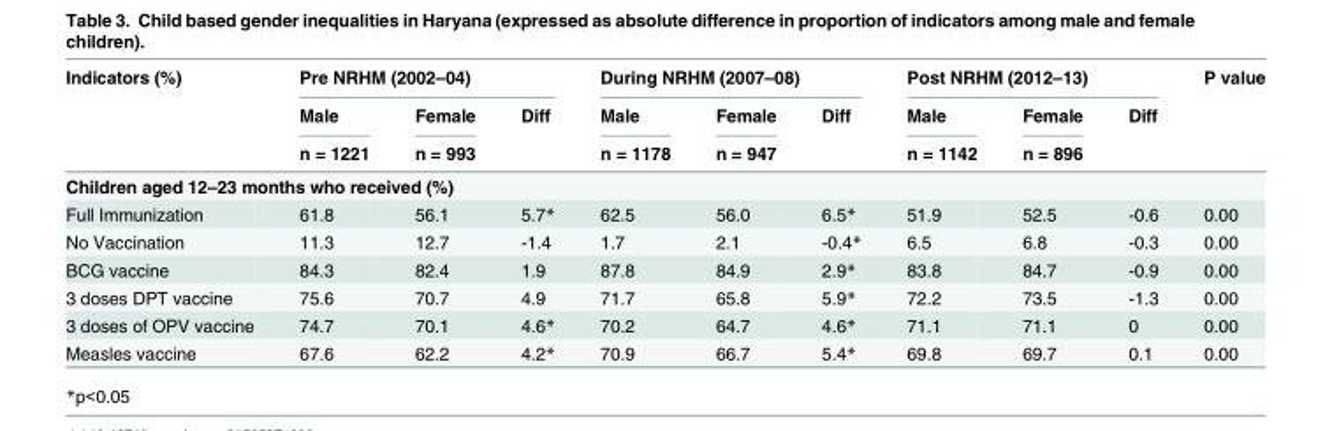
<table><thead><tr><td rowspan="3">Indicators (%)</td><td colspan="3">Pre NRHM (2002–04)</td><td colspan="3">During NRHM (2007–08)</td><td colspan="3">Post NRHM (2012–13)</td><td rowspan="3">P value</td></tr><tr><td rowspan="2">Male n = 1221</td><td rowspan="2">Female n = 993</td><td rowspan="2">Diff</td><td rowspan="2">Male n = 1178</td><td rowspan="2">Female n = 947</td><td rowspan="2">Diff</td><td rowspan="2">Male n = 1142</td><td rowspan="2">Female n = 896</td><td rowspan="2">Diff</td></tr><tr></tr></thead><tbody><tr><td colspan="11">Children aged 12–23 months who received (%)</td></tr><tr><td>Full Immunization</td><td>61.8</td><td>56.1</td><td>5.7*</td><td>62.5</td><td>56.0</td><td>6.5*</td><td>51.9</td><td>52.5</td><td>-0.6</td><td>0.00</td></tr><tr><td>No Vaccination</td><td>11.3</td><td>12.7</td><td>-1.4</td><td>1.7</td><td>2.1</td><td>-0.4*</td><td>6.5</td><td>6.8</td><td>-0.3</td><td>0.00</td></tr><tr><td>BCG vaccine</td><td>84.3</td><td>82.4</td><td>1.9</td><td>87.8</td><td>84.9</td><td>2.9*</td><td>83.8</td><td>84.7</td><td>-0.9</td><td>0.00</td></tr><tr><td>3 doses DPT vaccine</td><td>75.6</td><td>70.7</td><td>4.9</td><td>71.7</td><td>65.8</td><td>5.9*</td><td>72.2</td><td>73.5</td><td>-1.3</td><td>0.00</td></tr><tr><td>3 doses of OPV vaccine</td><td>74.7</td><td>70.1</td><td>4.6*</td><td>70.2</td><td>64.7</td><td>4.6*</td><td>71.1</td><td>71.1</td><td>0</td><td>0.00</td></tr><tr><td>Measles vaccine</td><td>67.6</td><td>62.2</td><td>4.2*</td><td>70.9</td><td>66.7</td><td>5.4*</td><td>69.8</td><td>69.7</td><td>0.1</td><td>0.00</td></tr></tbody></table>